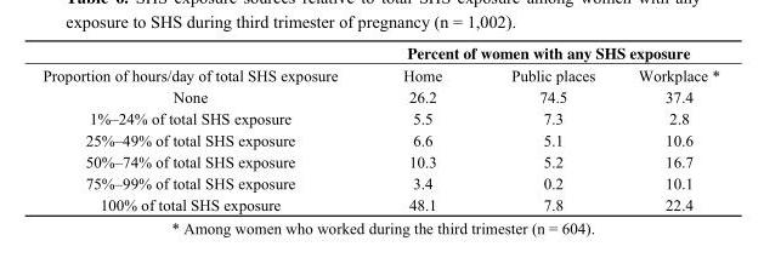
<table><thead><tr><td rowspan="2">Proportion of hours/day of total SHS exposure</td><td colspan="3">Percent of women with any SHS exposure</td></tr><tr><td>Home</td><td>Public places</td><td>Workplace *</td></tr></thead><tbody><tr><td>None</td><td>26.2</td><td>74.5</td><td>37.4</td></tr><tr><td>1%–24% of total SHS exposure</td><td>5.5</td><td>7.3</td><td>2.8</td></tr><tr><td>25%–49% of total SHS exposure</td><td>6.6</td><td>5.1</td><td>10.6</td></tr><tr><td>50%–74% of total SHS exposure</td><td>10.3</td><td>5.2</td><td>16.7</td></tr><tr><td>75%–99% of total SHS exposure</td><td>3.4</td><td>0.2</td><td>10.1</td></tr><tr><td>100% of total SHS exposure</td><td>48.1</td><td>7.8</td><td>22.4</td></tr></tbody></table>